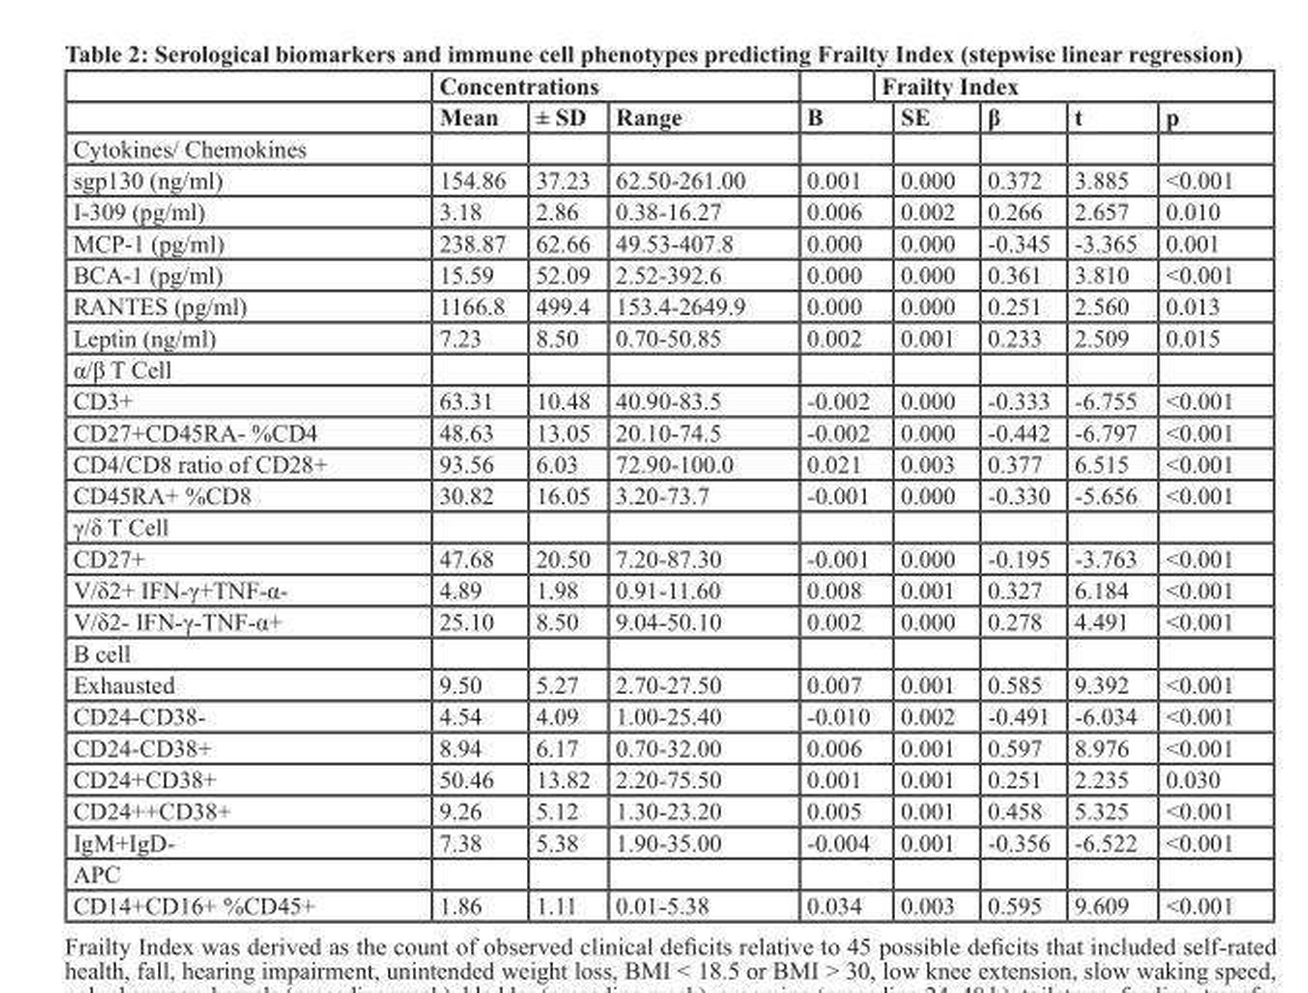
<table><thead><tr><td rowspan="2"></td><td colspan="3">Concentrations</td><td rowspan="2">B</td><td colspan="4">Frailty Index</td></tr><tr><td>Mean</td><td>± SD</td><td>Range</td><td>SE</td><td>β</td><td>t</td><td>p</td></tr></thead><tbody><tr><td colspan="9">Cytokines/ Chemokines</td></tr><tr><td>sgp130 (ng/ml)</td><td>154.86</td><td>37.23</td><td>62.50-261.00</td><td>0.001</td><td>0.000</td><td>0.372</td><td>3.885</td><td>&lt;0.001</td></tr><tr><td>I-309 (pg/ml)</td><td>3.18</td><td>2.86</td><td>0.38-16.27</td><td>0.006</td><td>0.002</td><td>0.266</td><td>2.657</td><td>0.010</td></tr><tr><td>MCP-1 (pg/ml)</td><td>238.87</td><td>62.66</td><td>49.53-407.8</td><td>0.000</td><td>0.000</td><td>-0.345</td><td>-3.365</td><td>0.001</td></tr><tr><td>BCA-1 (pg/ml)</td><td>15.59</td><td>52.09</td><td>2.52-392.6</td><td>0.000</td><td>0.000</td><td>0.361</td><td>3.810</td><td>&lt;0.001</td></tr><tr><td>RANTES (pg/ml)</td><td>1166.8</td><td>499.4</td><td>153.4-2649.9</td><td>0.000</td><td>0.000</td><td>0.251</td><td>2.560</td><td>0.013</td></tr><tr><td>Leptin (ng/ml)</td><td>7.23</td><td>8.50</td><td>0.70-50.85</td><td>0.002</td><td>0.001</td><td>0.233</td><td>2.509</td><td>0.015</td></tr><tr><td colspan="9">α/β T Cell</td></tr><tr><td>CD3+</td><td>63.31</td><td>10.48</td><td>40.90-83.5</td><td>-0.002</td><td>0.000</td><td>-0.333</td><td>-6.755</td><td>&lt;0.001</td></tr><tr><td>CD27+CD45RA- %CD4</td><td>48.63</td><td>13.05</td><td>20.10-74.5</td><td>-0.002</td><td>0.000</td><td>-0.442</td><td>-6.797</td><td>&lt;0.001</td></tr><tr><td>CD4/CD8 ratio of CD28+</td><td>93.56</td><td>6.03</td><td>72.90-100.0</td><td>0.021</td><td>0.003</td><td>0.377</td><td>6.515</td><td>&lt;0.001</td></tr><tr><td>CD45RA+ %CD8</td><td>30.82</td><td>16.05</td><td>3.20-73.7</td><td>-0.001</td><td>0.000</td><td>-0.330</td><td>-5.656</td><td>&lt;0.001</td></tr><tr><td colspan="9">γ/δ T Cell</td></tr><tr><td>CD27+</td><td>47.68</td><td>20.50</td><td>7.20-87.30</td><td>-0.001</td><td>0.000</td><td>-0.195</td><td>-3.763</td><td>&lt;0.001</td></tr><tr><td>V/δ2+ IFN-γ+TNF-α-</td><td>4.89</td><td>1.98</td><td>0.91-11.60</td><td>0.008</td><td>0.001</td><td>0.327</td><td>6.184</td><td>&lt;0.001</td></tr><tr><td>V/δ2- IFN-γ-TNF-α+</td><td>25.10</td><td>8.50</td><td>9.04-50.10</td><td>0.002</td><td>0.000</td><td>0.278</td><td>4.491</td><td>&lt;0.001</td></tr><tr><td colspan="9">B cell</td></tr><tr><td>Exhausted</td><td>9.50</td><td>5.27</td><td>2.70-27.50</td><td>0.007</td><td>0.001</td><td>0.585</td><td>9.392</td><td>&lt;0.001</td></tr><tr><td>CD24-CD38-</td><td>4.54</td><td>4.09</td><td>1.00-25.40</td><td>-0.010</td><td>0.002</td><td>-0.491</td><td>-6.034</td><td>&lt;0.001</td></tr><tr><td>CD24-CD38+</td><td>8.94</td><td>6.17</td><td>0.70-32.00</td><td>0.006</td><td>0.001</td><td>0.597</td><td>8.976</td><td>&lt;0.001</td></tr><tr><td>CD24+CD38+</td><td>50.46</td><td>13.82</td><td>2.20-75.50</td><td>0.001</td><td>0.001</td><td>0.251</td><td>2.235</td><td>0.030</td></tr><tr><td>CD24++CD38+</td><td>9.26</td><td>5.12</td><td>1.30-23.20</td><td>0.005</td><td>0.001</td><td>0.458</td><td>5.325</td><td>&lt;0.001</td></tr><tr><td>IgM+IgD-</td><td>7.38</td><td>5.38</td><td>1.90-35.00</td><td>-0.004</td><td>0.001</td><td>-0.356</td><td>-6.522</td><td>&lt;0.001</td></tr><tr><td colspan="9">APC</td></tr><tr><td>CD14+CD16+ %CD45+</td><td>1.86</td><td>1.11</td><td>0.01-5.38</td><td>0.034</td><td>0.003</td><td>0.595</td><td>9.609</td><td>&lt;0.001</td></tr></tbody></table>